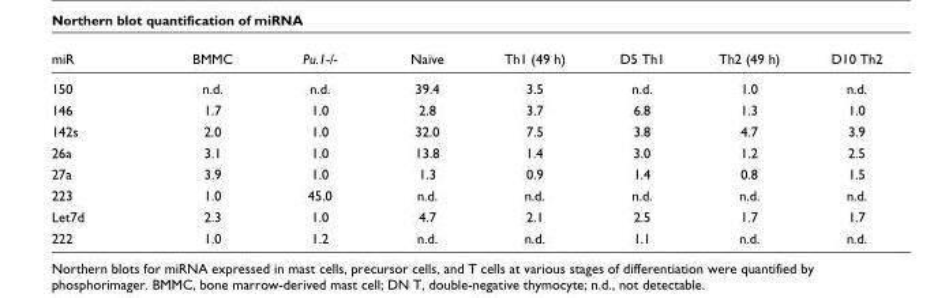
<table><thead><tr><td>miR</td><td>BMMC</td><td>Pu.1-/-</td><td>Naïve</td><td>Th1 (49 h)</td><td>D5 Th1</td><td>Th2 (49 h)</td><td>D10 Th2</td></tr></thead><tbody><tr><td>150</td><td>n.d.</td><td>n.d.</td><td>39.4</td><td>3.5</td><td>n.d.</td><td>1.0</td><td>n.d.</td></tr><tr><td>146</td><td>1.7</td><td>1.0</td><td>2.8</td><td>3.7</td><td>6.8</td><td>1.3</td><td>1.0</td></tr><tr><td>142s</td><td>2.0</td><td>1.0</td><td>32.0</td><td>7.5</td><td>3.8</td><td>4.7</td><td>3.9</td></tr><tr><td>26a</td><td>3.1</td><td>1.0</td><td>13.8</td><td>1.4</td><td>3.0</td><td>1.2</td><td>2.5</td></tr><tr><td>27a</td><td>3.9</td><td>1.0</td><td>1.3</td><td>0.9</td><td>1.4</td><td>0.8</td><td>1.5</td></tr><tr><td>223</td><td>1.0</td><td>45.0</td><td>n.d.</td><td>n.d.</td><td>n.d.</td><td>n.d.</td><td>n.d.</td></tr><tr><td>Let7d</td><td>2.3</td><td>1.0</td><td>4.7</td><td>2.1</td><td>2.5</td><td>1.7</td><td>1.7</td></tr><tr><td>222</td><td>1.0</td><td>1.2</td><td>n.d.</td><td>n.d.</td><td>1.1</td><td>n.d.</td><td>n.d.</td></tr></tbody></table>